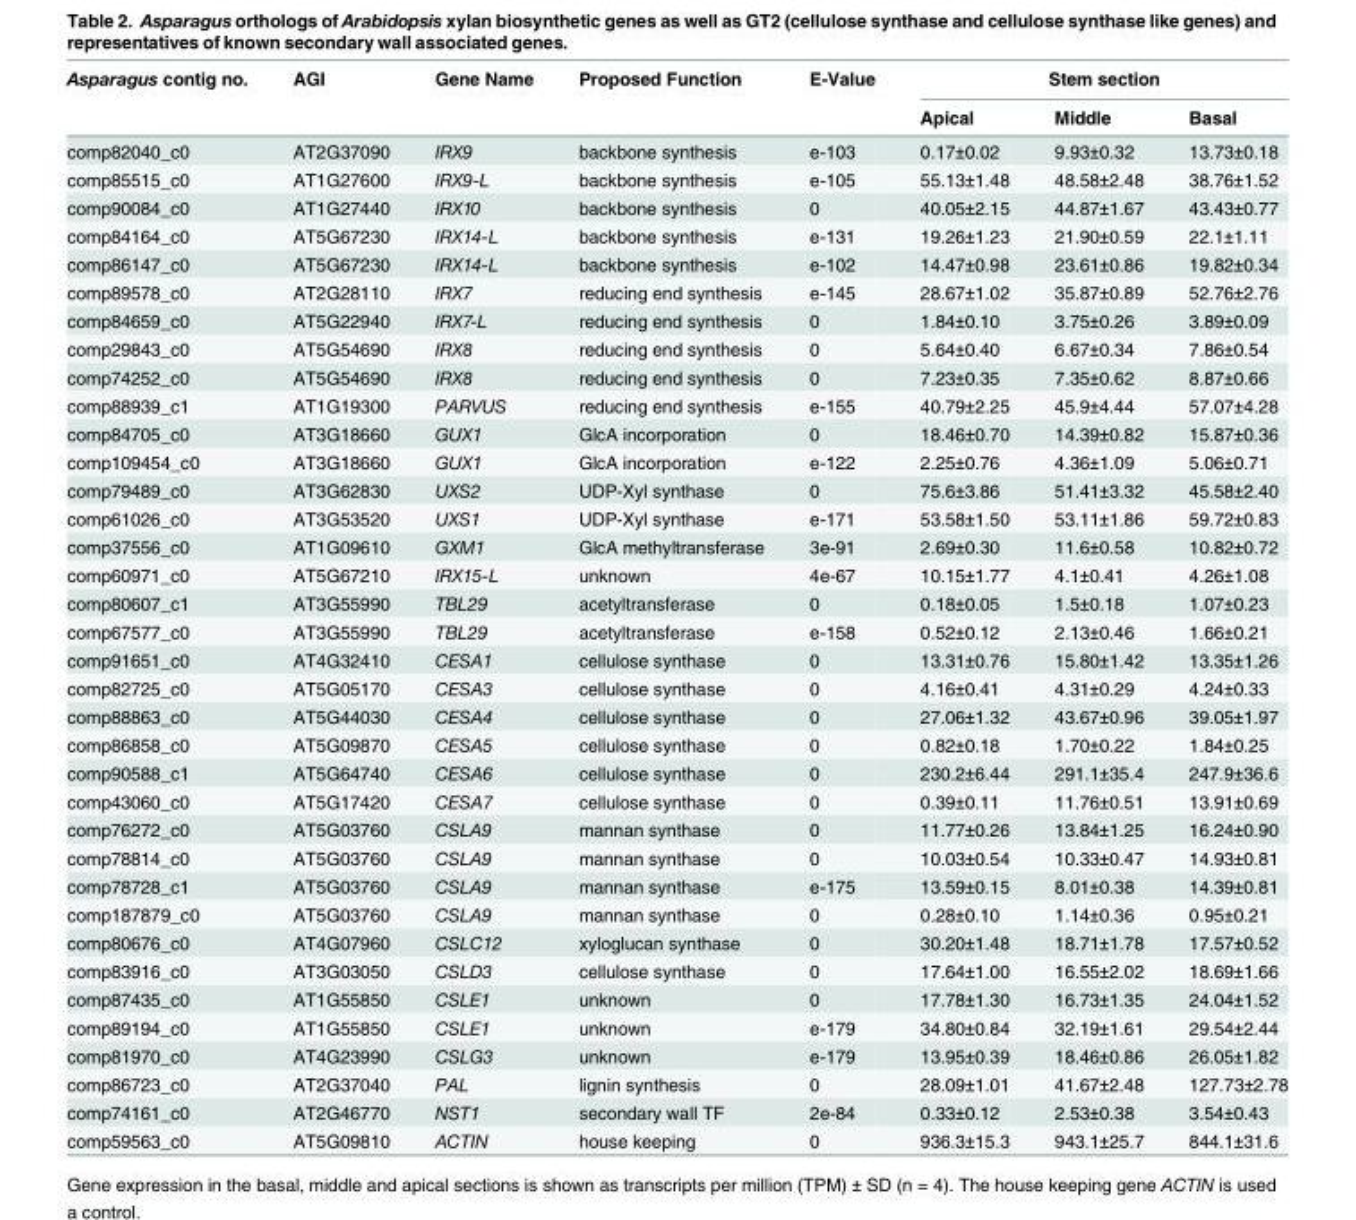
<table><thead><tr><td rowspan="2">Asparagus contig no.</td><td rowspan="2">AGI</td><td rowspan="2">Gene Name</td><td rowspan="2">Proposed Function</td><td rowspan="2">E-Value</td><td colspan="3">Stem section</td></tr><tr><td>Apical</td><td>Middle</td><td>Basal</td></tr></thead><tbody><tr><td>comp82040_c0</td><td>AT2G37090</td><td>IRX9</td><td>backbone synthesis</td><td>e-103</td><td>0.17±0.02</td><td>9.93±0.32</td><td>13.73±0.18</td></tr><tr><td>comp85515_c0</td><td>AT1G27600</td><td>IRX9-L</td><td>backbone synthesis</td><td>e-105</td><td>55.13±1.48</td><td>48.58±2.48</td><td>38.76±1.52</td></tr><tr><td>comp90084_c0</td><td>AT1G27440</td><td>IRX10</td><td>backbone synthesis</td><td>0</td><td>40.05±2.15</td><td>44.87±1.67</td><td>43.43±0.77</td></tr><tr><td>comp84164_c0</td><td>AT5G67230</td><td>IRX14-L</td><td>backbone synthesis</td><td>e-131</td><td>19.26±1.23</td><td>21.90±0.59</td><td>22.1±1.11</td></tr><tr><td>comp86147_c0</td><td>AT5G67230</td><td>IRX14-L</td><td>backbone synthesis</td><td>e-102</td><td>14.47±0.98</td><td>23.61±0.86</td><td>19.82±0.34</td></tr><tr><td>comp89578_c0</td><td>AT2G28110</td><td>IRX7</td><td>reducing end synthesis</td><td>e-145</td><td>28.67±1.02</td><td>35.87±0.89</td><td>52.76±2.76</td></tr><tr><td>comp84659_c0</td><td>AT5G22940</td><td>IRX7-L</td><td>reducing end synthesis</td><td>0</td><td>1.84±0.10</td><td>3.75±0.26</td><td>3.89±0.09</td></tr><tr><td>comp29843_c0</td><td>AT5G54690</td><td>IRX8</td><td>reducing end synthesis</td><td>0</td><td>5.64±0.40</td><td>6.67±0.34</td><td>7.86±0.54</td></tr><tr><td>comp74252_c0</td><td>AT5G54690</td><td>IRX8</td><td>reducing end synthesis</td><td>0</td><td>7.23±0.35</td><td>7.35±0.62</td><td>8.87±0.66</td></tr><tr><td>comp88939_c1</td><td>AT1G19300</td><td>PARVUS</td><td>reducing end synthesis</td><td>e-155</td><td>40.79±2.25</td><td>45.9±4.44</td><td>57.07±4.28</td></tr><tr><td>comp84705_c0</td><td>AT3G18660</td><td>GUX1</td><td>GlcA incorporation</td><td>0</td><td>18.46±0.70</td><td>14.39±0.82</td><td>15.87±0.36</td></tr><tr><td>comp109454_c0</td><td>AT3G18660</td><td>GUX1</td><td>GlcA incorporation</td><td>e-122</td><td>2.25±0.76</td><td>4.36±1.09</td><td>5.06±0.71</td></tr><tr><td>comp79489_c0</td><td>AT3G62830</td><td>UXS2</td><td>UDP-Xyl synthase</td><td>0</td><td>75.6±3.86</td><td>51.41±3.32</td><td>45.58±2.40</td></tr><tr><td>comp61026_c0</td><td>AT3G53520</td><td>UXS1</td><td>UDP-Xyl synthase</td><td>e-171</td><td>53.58±1.50</td><td>53.11±1.86</td><td>59.72±0.83</td></tr><tr><td>comp37556_c0</td><td>AT1G09610</td><td>GXM1</td><td>GlcA methyltransferase</td><td>3e-91</td><td>2.69±0.30</td><td>11.6±0.58</td><td>10.82±0.72</td></tr><tr><td>comp60971_c0</td><td>AT5G67210</td><td>IRX15-L</td><td>unknown</td><td>4e-67</td><td>10.15±1.77</td><td>4.1±0.41</td><td>4.26±1.08</td></tr><tr><td>comp80607_c1</td><td>AT3G55990</td><td>TBL29</td><td>acetyltransferase</td><td>0</td><td>0.18±0.05</td><td>1.5±0.18</td><td>1.07±0.23</td></tr><tr><td>comp67577_c0</td><td>AT3G55990</td><td>TBL29</td><td>acetyltransferase</td><td>e-158</td><td>0.52±0.12</td><td>2.13±0.46</td><td>1.66±0.21</td></tr><tr><td>comp91651_c0</td><td>AT4G32410</td><td>CESA1</td><td>cellulose synthase</td><td>0</td><td>13.31±0.76</td><td>15.80±1.42</td><td>13.35±1.26</td></tr><tr><td>comp82725_c0</td><td>AT5G05170</td><td>CESA3</td><td>cellulose synthase</td><td>0</td><td>4.16±0.41</td><td>4.31±0.29</td><td>4.24±0.33</td></tr><tr><td>comp88863_c0</td><td>AT5G44030</td><td>CESA4</td><td>cellulose synthase</td><td>0</td><td>27.06±1.32</td><td>43.67±0.96</td><td>39.05±1.97</td></tr><tr><td>comp86858_c0</td><td>AT5G09870</td><td>CESA5</td><td>cellulose synthase</td><td>0</td><td>0.82±0.18</td><td>1.70±0.22</td><td>1.84±0.25</td></tr><tr><td>comp90588_c1</td><td>AT5G64740</td><td>CESA6</td><td>cellulose synthase</td><td>0</td><td>230.2±6.44</td><td>291.1±35.4</td><td>247.9±36.6</td></tr><tr><td>comp43060_c0</td><td>AT5G17420</td><td>CESA7</td><td>cellulose synthase</td><td>0</td><td>0.39±0.11</td><td>11.76±0.51</td><td>13.91±0.69</td></tr><tr><td>comp76272_c0</td><td>AT5G03760</td><td>CSLA9</td><td>mannan synthase</td><td>0</td><td>11.77±0.26</td><td>13.84±1.25</td><td>16.24±0.90</td></tr><tr><td>comp78814_c0</td><td>AT5G03760</td><td>CSLA9</td><td>mannan synthase</td><td>0</td><td>10.03±0.54</td><td>10.33±0.47</td><td>14.93±0.81</td></tr><tr><td>comp78728_c1</td><td>AT5G03760</td><td>CSLA9</td><td>mannan synthase</td><td>e-175</td><td>13.59±0.15</td><td>8.01±0.38</td><td>14.39±0.81</td></tr><tr><td>comp187879_c0</td><td>AT5G03760</td><td>CSLA9</td><td>mannan synthase</td><td>0</td><td>0.28±0.10</td><td>1.14±0.36</td><td>0.95±0.21</td></tr><tr><td>comp80676_c0</td><td>AT4G07960</td><td>CSLC12</td><td>xyloglucan synthase</td><td>0</td><td>30.20±1.48</td><td>18.71±1.78</td><td>17.57±0.52</td></tr><tr><td>comp83916_c0</td><td>AT3G03050</td><td>CSLD3</td><td>cellulose synthase</td><td>0</td><td>17.64±1.00</td><td>16.55±2.02</td><td>18.69±1.66</td></tr><tr><td>comp87435_c0</td><td>AT1G55850</td><td>CSLE1</td><td>unknown</td><td>0</td><td>17.78±1.30</td><td>16.73±1.35</td><td>24.04±1.52</td></tr><tr><td>comp89194_c0</td><td>AT1G55850</td><td>CSLE1</td><td>unknown</td><td>e-179</td><td>34.80±0.84</td><td>32.19±1.61</td><td>29.54±2.44</td></tr><tr><td>comp81970_c0</td><td>AT4G23990</td><td>CSLG3</td><td>unknown</td><td>e-179</td><td>13.95±0.39</td><td>18.46±0.86</td><td>26.05±1.82</td></tr><tr><td>comp86723_c0</td><td>AT2G37040</td><td>PAL</td><td>lignin synthesis</td><td>0</td><td>28.09±1.01</td><td>41.67±2.48</td><td>127.73±2.78</td></tr><tr><td>comp74161_c0</td><td>AT2G46770</td><td>NST1</td><td>secondary wall TF</td><td>2e-84</td><td>0.33±0.12</td><td>2.53±0.38</td><td>3.54±0.43</td></tr><tr><td>comp59563_c0</td><td>AT5G09810</td><td>ACTIN</td><td>house keeping</td><td>0</td><td>936.3±15.3</td><td>943.1±25.7</td><td>844.1±31.6</td></tr></tbody></table>